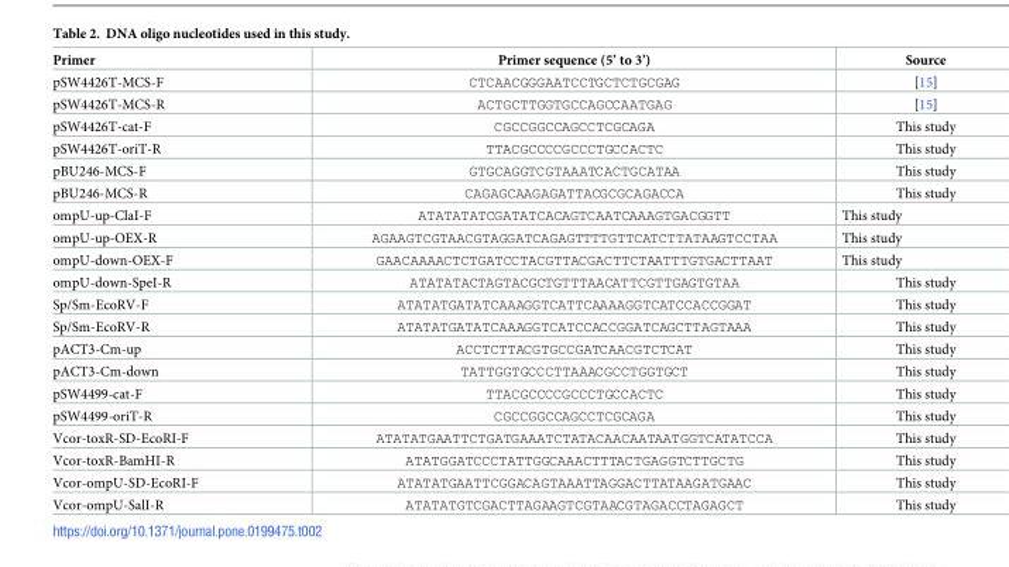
<table><thead><tr><td>Primer</td><td>Primer sequence (5’ to 3’)</td><td>Source</td></tr></thead><tbody><tr><td>pSW4426T-MCS-F</td><td>CTCAACGGGAATCCTGCTCTGCGAG</td><td>[15]</td></tr><tr><td>pSW4426T-MCS-R</td><td>ACTGCTTGGTGCCAGCCAATGAG</td><td>[15]</td></tr><tr><td>pSW4426T-cat-F</td><td>CGCCGGCCAGCCTCGCAGA</td><td>This study</td></tr><tr><td>pSW4426T-oriT-R</td><td>TTACGCCCCGCCCTGCCACTC</td><td>This study</td></tr><tr><td>pBU246-MCS-F</td><td>GTGCAGGTCGTAAATCACTGCATAA</td><td>This study</td></tr><tr><td>pBU246-MCS-R</td><td>CAGAGCAAGAGATTACGCGCAGACCA</td><td>This study</td></tr><tr><td>ompU-up-ClaI-F</td><td>ATATATATCGATATCACAGTCAATCAAAGTGACGGTT</td><td>This study</td></tr><tr><td>ompU-up-OEX-R</td><td>AGAAGTCGTAACGTAGGATCAGAGTTTTGTTCATCTTATAAGTCCTAA</td><td>This study</td></tr><tr><td>ompU-down-OEX-F</td><td>GAACAAAACTCTGATCCTACGTTACGACTTCTAATTTGTGACTTAAT</td><td>This study</td></tr><tr><td>ompU-down-SpeI-R</td><td>ATATATACTAGTACGCTGTTTAACATTCGTTGAGTGTAA</td><td>This study</td></tr><tr><td>Sp/Sm-EcoRV-F</td><td>ATATATGATATCAAAGGTCATTCAAAAGGTCATCCACCGGAT</td><td>This study</td></tr><tr><td>Sp/Sm-EcoRV-R</td><td>ATATATGATATCAAAGGTCATCCACCGGATCAGCTTAGTAAA</td><td>This study</td></tr><tr><td>pACT3-Cm-up</td><td>ACCTCTTACGTGCCGATCAACGTCTCAT</td><td>This study</td></tr><tr><td>pACT3-Cm-down</td><td>TATTGGTGCCCTTAAACGCCTGGTGCT</td><td>This study</td></tr><tr><td>pSW4499-cat-F</td><td>TTACGCCCCGCCCTGCCACTC</td><td>This study</td></tr><tr><td>pSW4499-oriT-R</td><td>CGCCGGCCAGCCTCGCAGA</td><td>This study</td></tr><tr><td>Vcor-toxR-SD-EcoRI-F</td><td>ATATATGAATTCTGATGAAATCTATACAACAATAATGGTCATATCCA</td><td>This study</td></tr><tr><td>Vcor-toxR-BamHI-R</td><td>ATATGGATCCCTATTGGCAAACTTTACTGAGGTCTTGCTG</td><td>This study</td></tr><tr><td>Vcor-ompU-SD-EcoRI-F</td><td>ATATATGAATTCGGACAGTAAATTAGGACTTATAAGATGAAC</td><td>This study</td></tr><tr><td>Vcor-ompU-SalI-R</td><td>ATATATGTCGACTTAGAAGTCGTAACGTAGACCTAGAGCT</td><td>This study</td></tr></tbody></table>